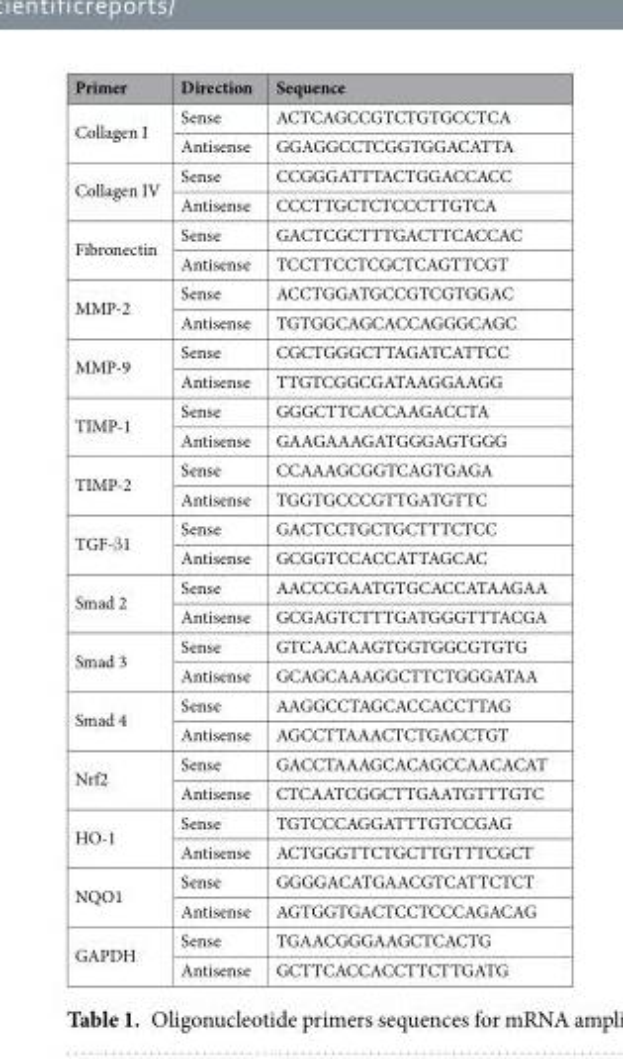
<table><thead><tr><td>Primer</td><td>Direction</td><td>Sequence</td></tr></thead><tbody><tr><td rowspan="2">Collagen I</td><td>Sense</td><td>ACTCAGCCGTCTGTGCCTCA</td></tr><tr><td>Antisense</td><td>GGAGGCCTCGGTGGACATTA</td></tr><tr><td rowspan="2">Collagen IV</td><td>Sense</td><td>CCGGGATTTACTGGACCACC</td></tr><tr><td>Antisense</td><td>CCCTTGCTCTCCCTTGTCA</td></tr><tr><td rowspan="2">Fibronectin</td><td>Sense</td><td>GACTCGCTTTGACTTCACCAC</td></tr><tr><td>Antisense</td><td>TCCTTCCTCGCTCAGTTCGT</td></tr><tr><td rowspan="2">MMP-2</td><td>Sense</td><td>ACCTGGATGCCGTCGTGGAC</td></tr><tr><td>Antisense</td><td>TGTGGCAGCACCAGGGCAGC</td></tr><tr><td rowspan="2">MMP-9</td><td>Sense</td><td>CGCTGGGCTTAGATCATTCC</td></tr><tr><td>Antisense</td><td>TTGTCGGCGATAAGGAAGG</td></tr><tr><td rowspan="2">TIMP-1</td><td>Sense</td><td>GGGCTTCACCAAGACCTA</td></tr><tr><td>Antisense</td><td>GAAGAAAGATGGGAGTGGG</td></tr><tr><td rowspan="2">TIMP-2</td><td>Sense</td><td>CCAAAGCGGTCAGTGAGA</td></tr><tr><td>Antisense</td><td>TGGTGCCCGTTGATGTTC</td></tr><tr><td rowspan="2">TGF-β1</td><td>Sense</td><td>GACTCCTGCTGCTTTCTCC</td></tr><tr><td>Antisense</td><td>GCGGTCCACCATTAGCAC</td></tr><tr><td rowspan="2">Smad 2</td><td>Sense</td><td>AACCCGAATGTGCACCATAAGAA</td></tr><tr><td>Antisense</td><td>GCGAGTCTTTGATGGGTTTACGA</td></tr><tr><td rowspan="2">Smad 3</td><td>Sense</td><td>GTCAACAAGTGGTGGCGTGTG</td></tr><tr><td>Antisense</td><td>GCAGCAAAGGCTTCTGGGATAA</td></tr><tr><td rowspan="2">Smad 4</td><td>Sense</td><td>AAGGCCTAGCACCACCTTAG</td></tr><tr><td>Antisense</td><td>AGCCTTAAACTCTGACCTGT</td></tr><tr><td rowspan="2">Nrf2</td><td>Sense</td><td>GACCTAAAGCACAGCCAACACAT</td></tr><tr><td>Antisense</td><td>CTCAATCGGCTTGAATGTTTGTC</td></tr><tr><td rowspan="2">HO-1</td><td>Sense</td><td>TGTCCCAGGATTTGTCCGAG</td></tr><tr><td>Antisense</td><td>ACTGGGTTCTGCTTGTTTCGCT</td></tr><tr><td rowspan="2">NQO1</td><td>Sense</td><td>GGGGACATGAACGTCATTCTCT</td></tr><tr><td>Antisense</td><td>AGTGGTGACTCCTCCCAGACAG</td></tr><tr><td rowspan="2">GAPDH</td><td>Sense</td><td>TGAACGGGAAGCTCACTG</td></tr><tr><td>Antisense</td><td>GCTTCACCACCTTCTTGATG</td></tr></tbody></table>